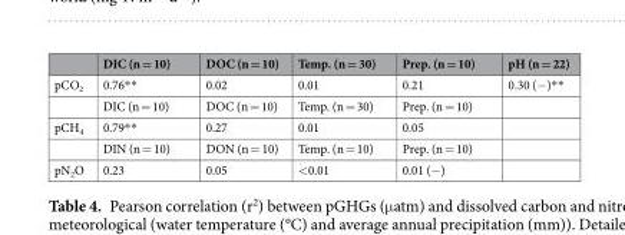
<table><thead><tr><td></td><td>DIC (n = 10)</td><td>DOC (n = 10)</td><td>Temp. (n = 30)</td><td>Prep. (n = 10)</td><td>pH (n = 22)</td></tr></thead><tbody><tr><td rowspan="2">pCO<sub>2</sub></td><td>0.76**</td><td>0.02</td><td>0.01</td><td>0.21</td><td>0.30 (−)**</td></tr><tr><td>DIC (n = 10)</td><td>DOC (n = 10)</td><td>Temp. (n = 30)</td><td>Prep. (n = 10)</td><td></td></tr><tr><td rowspan="2">pCH<sub>4</sub></td><td>0.79**</td><td>0.27</td><td>0.01</td><td>0.05</td><td></td></tr><tr><td>DIN (n = 10)</td><td>DON (n = 10)</td><td>Temp. (n = 10)</td><td>Prep. (n = 10)</td><td></td></tr><tr><td>pN<sub>2</sub>O</td><td>0.23</td><td>0.05</td><td>&lt;0.01</td><td>0.01 (−)</td><td></td></tr></tbody></table>